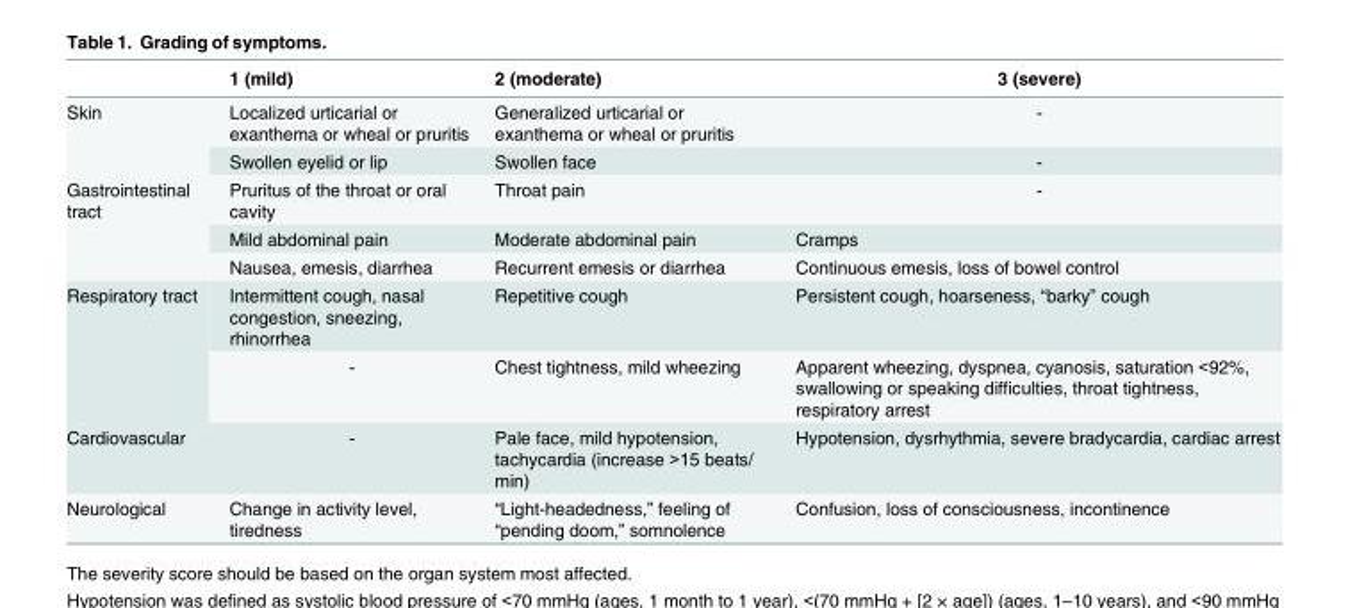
<table><thead><tr><td></td><td>1 (mild)</td><td>2 (moderate)</td><td>3 (severe)</td></tr></thead><tbody><tr><td rowspan="2">Skin</td><td>Localized urticarial or exanthema or wheal or pruritis</td><td>Generalized urticarial or exanthema or wheal or pruritis</td><td>-</td></tr><tr><td>Swollen eyelid or lip</td><td>Swollen face</td><td>-</td></tr><tr><td rowspan="3">Gastrointestinal tract</td><td>Pruritus of the throat or oral cavity</td><td>Throat pain</td><td>-</td></tr><tr><td>Mild abdominal pain</td><td>Moderate abdominal pain</td><td>Cramps</td></tr><tr><td>Nausea, emesis, diarrhea</td><td>Recurrent emesis or diarrhea</td><td>Continuous emesis, loss of bowel control</td></tr><tr><td rowspan="2">Respiratory tract</td><td>Intermittent cough, nasal congestion, sneezing, rhinorrhea</td><td>Repetitive cough</td><td>Persistent cough, hoarseness, “barky” cough</td></tr><tr><td>-</td><td>Chest tightness, mild wheezing</td><td>Apparent wheezing, dyspnea, cyanosis, saturation &lt;92%, swallowing or speaking difficulties, throat tightness, respiratory arrest</td></tr><tr><td>Cardiovascular</td><td>-</td><td>Pale face, mild hypotension, tachycardia (increase &gt;15 beats/ min)</td><td>Hypotension, dysrhythmia, severe bradycardia, cardiac arrest</td></tr><tr><td>Neurological</td><td>Change in activity level, tiredness</td><td>“Light-headedness,” feeling of “pending doom,” somnolence</td><td>Confusion, loss of consciousness, incontinence</td></tr></tbody></table>